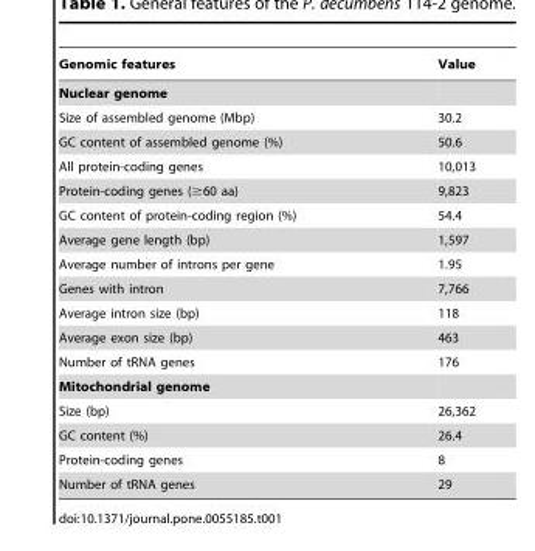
<table><thead><tr><td>Genomic features</td><td>Value</td></tr></thead><tbody><tr><td colspan="2">Nuclear genome</td></tr><tr><td>Size of assembled genome (Mbp)</td><td>30.2</td></tr><tr><td>GC content of assembled genome (%)</td><td>50.6</td></tr><tr><td>All protein-coding genes</td><td>10,013</td></tr><tr><td>Protein-coding genes (≥60 aa)</td><td>9,823</td></tr><tr><td>GC content of protein-coding region (%)</td><td>54.4</td></tr><tr><td>Average gene length (bp)</td><td>1,597</td></tr><tr><td>Average number of introns per gene</td><td>1.95</td></tr><tr><td>Genes with intron</td><td>7,766</td></tr><tr><td>Average intron size (bp)</td><td>118</td></tr><tr><td>Average exon size (bp)</td><td>463</td></tr><tr><td>Number of tRNA genes</td><td>176</td></tr><tr><td colspan="2">Mitochondrial genome</td></tr><tr><td>Size (bp)</td><td>26,362</td></tr><tr><td>GC content (%)</td><td>26.4</td></tr><tr><td>Protein-coding genes</td><td>8</td></tr><tr><td>Number of tRNA genes</td><td>29</td></tr></tbody></table>